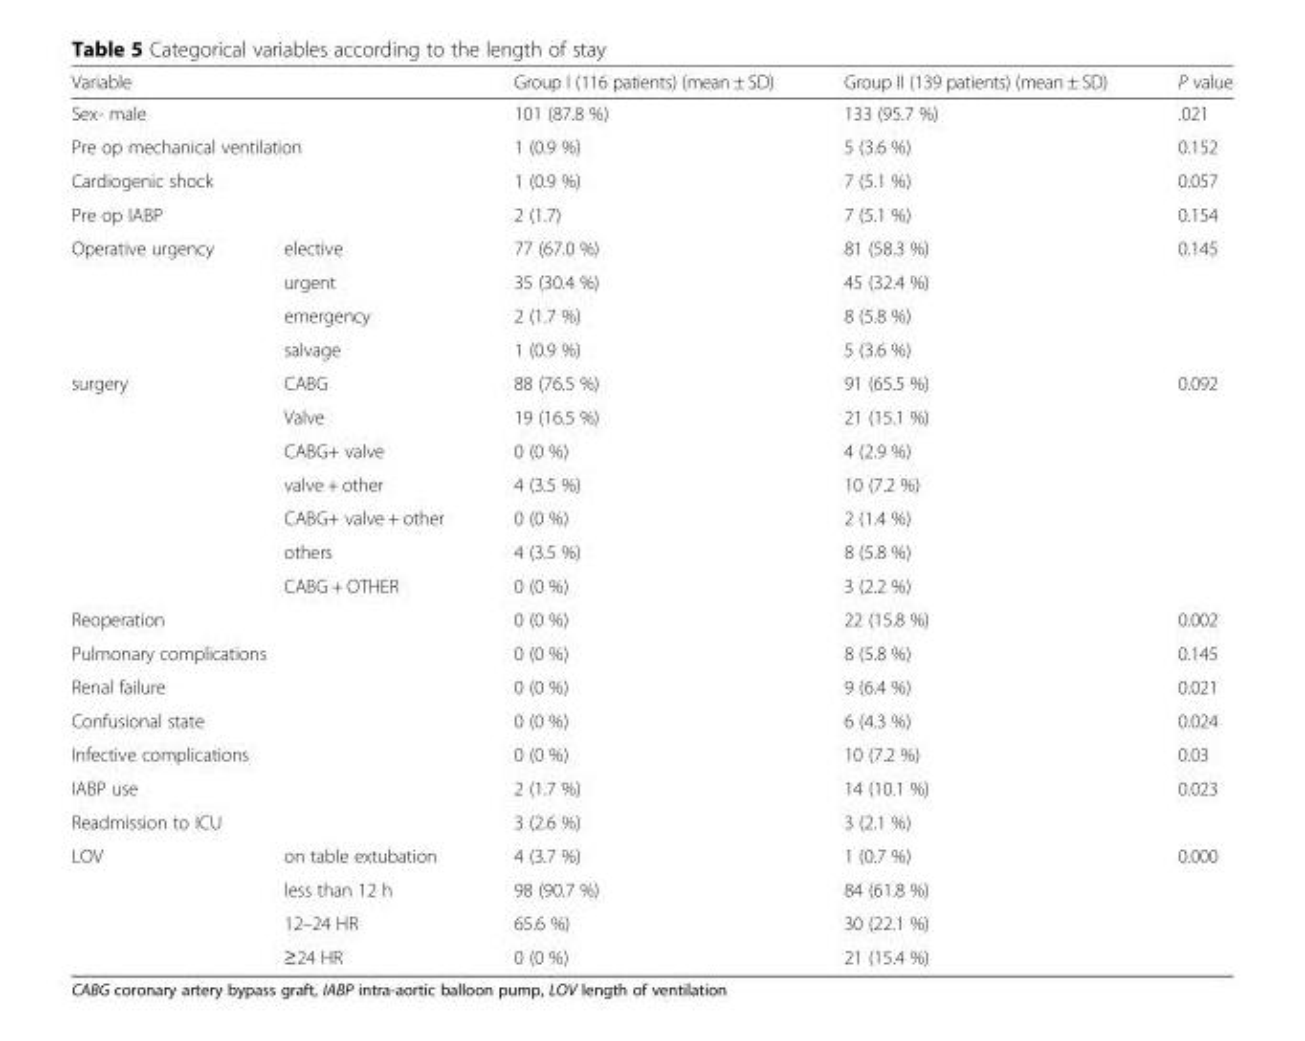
<table><thead><tr><td colspan="2">Variable</td><td>Group I (116 patients) (mean ± SD)</td><td>Group II (139 patients) (mean ± SD)</td><td>P value</td></tr></thead><tbody><tr><td colspan="2">Sex- male</td><td>101 (87.8 %)</td><td>133 (95.7 %)</td><td>.021</td></tr><tr><td colspan="2">Pre op mechanical ventilation</td><td>1 (0.9 %)</td><td>5 (3.6 %)</td><td>0.152</td></tr><tr><td colspan="2">Cardiogenic shock</td><td>1 (0.9 %)</td><td>7 (5.1 %)</td><td>0.057</td></tr><tr><td colspan="2">Pre op IABP</td><td>2 (1.7)</td><td>7 (5.1 %)</td><td>0.154</td></tr><tr><td rowspan="4">Operative urgency</td><td>elective</td><td>77 (67.0 %)</td><td>81 (58.3 %)</td><td rowspan="4">0.145</td></tr><tr><td>urgent</td><td>35 (30.4 %)</td><td>45 (32.4 %)</td></tr><tr><td>emergency</td><td>2 (1.7 %)</td><td>8 (5.8 %)</td></tr><tr><td>salvage</td><td>1 (0.9 %)</td><td>5 (3.6 %)</td></tr><tr><td rowspan="7">surgery</td><td>CABG</td><td>88 (76.5 %)</td><td>91 (65.5 %)</td><td rowspan="7">0.092</td></tr><tr><td>Valve</td><td>19 (16.5 %)</td><td>21 (15.1 %)</td></tr><tr><td>CABG+ valve</td><td>0 (0 %)</td><td>4 (2.9 %)</td></tr><tr><td>valve + other</td><td>4 (3.5 %)</td><td>10 (7.2 %)</td></tr><tr><td>CABG+ valve + other</td><td>0 (0 %)</td><td>2 (1.4 %)</td></tr><tr><td>others</td><td>4 (3.5 %)</td><td>8 (5.8 %)</td></tr><tr><td>CABG + OTHER</td><td>0 (0 %)</td><td>3 (2.2 %)</td></tr><tr><td colspan="2">Reoperation</td><td>0 (0 %)</td><td>22 (15.8 %)</td><td>0.002</td></tr><tr><td colspan="2">Pulmonary complications</td><td>0 (0 %)</td><td>8 (5.8 %)</td><td>0.145</td></tr><tr><td colspan="2">Renal failure</td><td>0 (0 %)</td><td>9 (6.4 %)</td><td>0.021</td></tr><tr><td colspan="2">Confusional state</td><td>0 (0 %)</td><td>6 (4.3 %)</td><td>0.024</td></tr><tr><td colspan="2">Infective complications</td><td>0 (0 %)</td><td>10 (7.2 %)</td><td>0.03</td></tr><tr><td colspan="2">IABP use</td><td>2 (1.7 %)</td><td>14 (10.1 %)</td><td>0.023</td></tr><tr><td colspan="2">Readmission to ICU</td><td>3 (2.6 %)</td><td>3 (2.1 %)</td><td></td></tr><tr><td rowspan="4">LOV</td><td>on table extubation</td><td>4 (3.7 %)</td><td>1 (0.7 %)</td><td rowspan="4">0.000</td></tr><tr><td>less than 12 h</td><td>98 (90.7 %)</td><td>84 (61.8 %)</td></tr><tr><td>12–24 HR</td><td>65.6 %)</td><td>30 (22.1 %)</td></tr><tr><td>≥24 HR</td><td>0 (0 %)</td><td>21 (15.4 %)</td></tr></tbody></table>